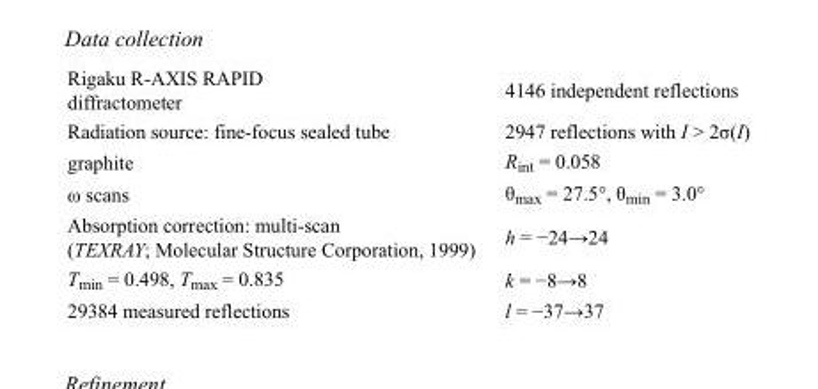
<table><tbody><tr><td>Rigaku R-AXIS RAPID diffractometer</td><td>4146 independent reflections</td></tr><tr><td>Radiation source: fine-focus sealed tube</td><td>2947 reflections with I &gt; 2σ(I)</td></tr><tr><td>graphite</td><td>R<sub>int</sub> = 0.058</td></tr><tr><td>ω scans</td><td>θ<sub>max</sub> = 27.5°, θ<sub>min</sub> = 3.0°</td></tr><tr><td>Absorption correction: multi-scan (TEXRAY; Molecular Structure Corporation, 1999)</td><td>h = −24→24</td></tr><tr><td>T<sub>min</sub> = 0.498, T<sub>max</sub> = 0.835</td><td>k = −8→8</td></tr><tr><td>29384 measured reflections</td><td>l = −37→37</td></tr></tbody></table>